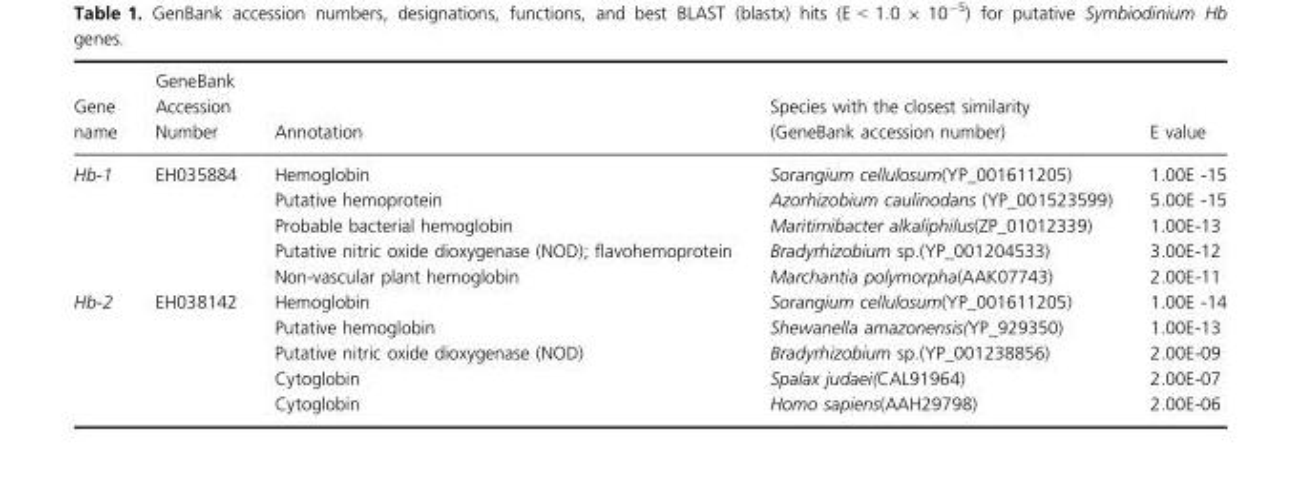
<table><thead><tr><td>Gene name</td><td>GeneBank Accession Number</td><td>Annotation</td><td>Species with the closest similarity (GeneBank accession number)</td><td>E value</td></tr></thead><tbody><tr><td rowspan="5">Hb-1</td><td rowspan="5">EH035884</td><td>Hemoglobin</td><td>Sorangium cellulosum(YP_001611205)</td><td>1.00E -15</td></tr><tr><td>Putative hemoprotein</td><td>Azorhizobium caulinodans (YP_001523599)</td><td>5.00E -15</td></tr><tr><td>Probable bacterial hemoglobin</td><td>Maritimibacter alkaliphilus(ZP_01012339)</td><td>1.00E-13</td></tr><tr><td>Putative nitric oxide dioxygenase (NOD); flavohemoprotein</td><td>Bradyrhizobium sp.(YP_001204533)</td><td>3.00E-12</td></tr><tr><td>Non-vascular plant hemoglobin</td><td>Marchantia polymorpha(AAK07743)</td><td>2.00E-11</td></tr><tr><td rowspan="5">Hb-2</td><td rowspan="5">EH038142</td><td>Hemoglobin</td><td>Sorangium cellulosum(YP_001611205)</td><td>1.00E -14</td></tr><tr><td>Putative hemoglobin</td><td>Shewanella amazonensis(YP_929350)</td><td>1.00E-13</td></tr><tr><td>Putative nitric oxide dioxygenase (NOD)</td><td>Bradyrhizobium sp.(YP_001238856)</td><td>2.00E-09</td></tr><tr><td>Cytoglobin</td><td>Spalax judaei(CAL91964)</td><td>2.00E-07</td></tr><tr><td>Cytoglobin</td><td>Homo sapiens(AAH29798)</td><td>2.00E-06</td></tr></tbody></table>